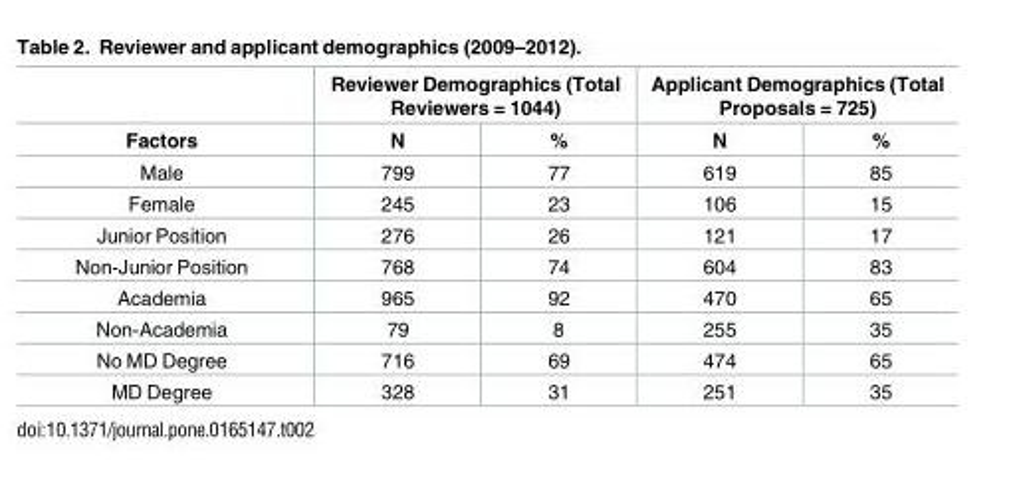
<table><thead><tr><td rowspan="2">Factors</td><td colspan="2">Reviewer Demographics (Total Reviewers = 1044)</td><td colspan="2">Applicant Demographics (Total Proposals = 725)</td></tr><tr><td>N</td><td>%</td><td>N</td><td>%</td></tr></thead><tbody><tr><td>Male</td><td>799</td><td>77</td><td>619</td><td>85</td></tr><tr><td>Female</td><td>245</td><td>23</td><td>106</td><td>15</td></tr><tr><td>Junior Position</td><td>276</td><td>26</td><td>121</td><td>17</td></tr><tr><td>Non-Junior Position</td><td>768</td><td>74</td><td>604</td><td>83</td></tr><tr><td>Academia</td><td>965</td><td>92</td><td>470</td><td>65</td></tr><tr><td>Non-Academia</td><td>79</td><td>8</td><td>255</td><td>35</td></tr><tr><td>No MD Degree</td><td>716</td><td>69</td><td>474</td><td>65</td></tr><tr><td>MD Degree</td><td>328</td><td>31</td><td>251</td><td>35</td></tr></tbody></table>